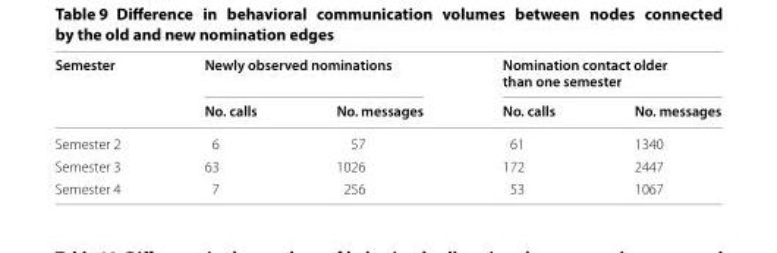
<table><thead><tr><td rowspan="2">Semester</td><td colspan="2">Newly observed nominations</td><td colspan="2">Nomination contact older than one semester</td></tr><tr><td>No. calls</td><td>No. messages</td><td>No. calls</td><td>No. messages</td></tr></thead><tbody><tr><td>Semester 2</td><td>6</td><td>57</td><td>61</td><td>1340</td></tr><tr><td>Semester 3</td><td>63</td><td>1026</td><td>172</td><td>2447</td></tr><tr><td>Semester 4</td><td>7</td><td>256</td><td>53</td><td>1067</td></tr></tbody></table>